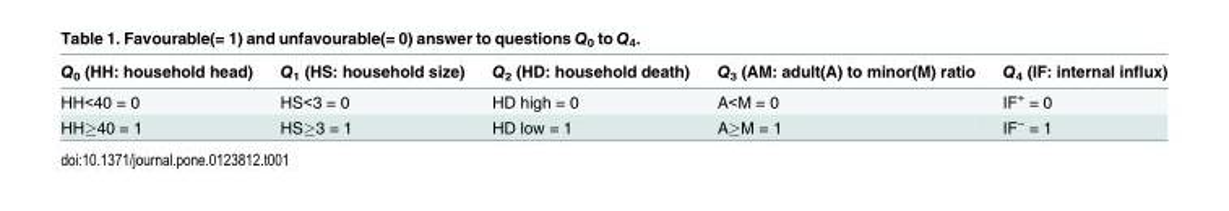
<table><thead><tr><td>Q<sub>0</sub> (HH: household head)</td><td>Q<sub>1</sub> (HS: household size)</td><td>Q<sub>2</sub> (HD: household death)</td><td>Q<sub>3</sub> (AM: adult(A) to minor(M) ratio</td><td>Q<sub>4</sub> (IF: internal influx)</td></tr></thead><tbody><tr><td>HH&lt;40 = 0</td><td>HS&lt;3 = 0</td><td>HD high = 0</td><td>A&lt;M = 0</td><td>IF<sup>+</sup> = 0</td></tr><tr><td>HH≥40 = 1</td><td>HS≥3 = 1</td><td>HD low = 1</td><td>A≥M = 1</td><td>IF<sup>−</sup> = 1</td></tr></tbody></table>